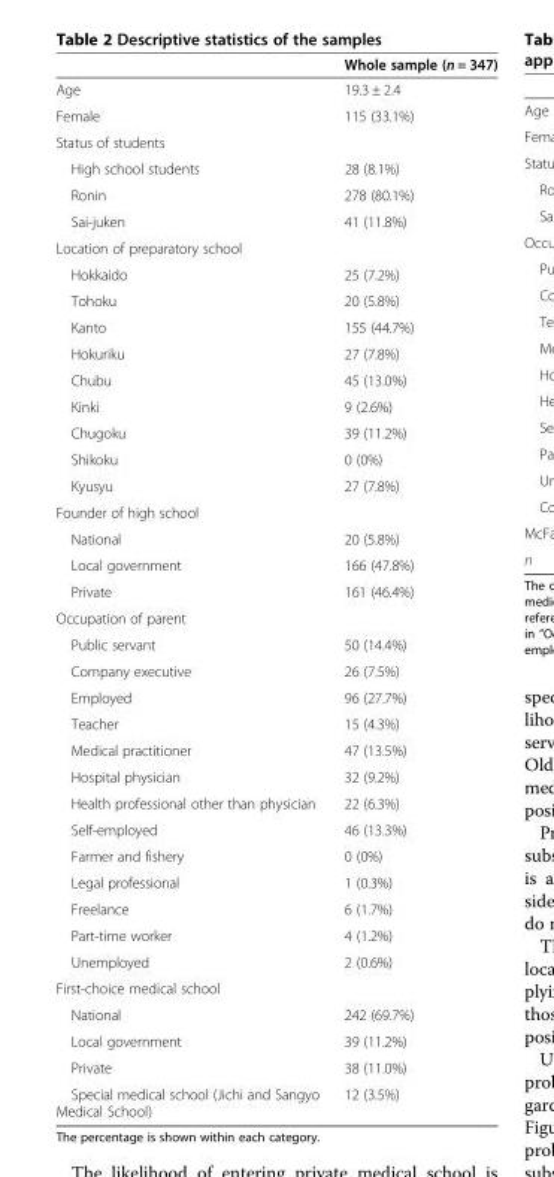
<table><thead><tr><td></td><td>Whole sample (n = 347)</td></tr></thead><tbody><tr><td>Age</td><td>19.3 ± 2.4</td></tr><tr><td>Female</td><td>115 (33.1%)</td></tr><tr><td colspan="2">Status of students</td></tr><tr><td>High school students</td><td>28 (8.1%)</td></tr><tr><td>Ronin</td><td>278 (80.1%)</td></tr><tr><td>Sai-juken</td><td>41 (11.8%)</td></tr><tr><td colspan="2">Location of preparatory school</td></tr><tr><td>Hokkaido</td><td>25 (7.2%)</td></tr><tr><td>Tohoku</td><td>20 (5.8%)</td></tr><tr><td>Kanto</td><td>155 (44.7%)</td></tr><tr><td>Hokuriku</td><td>27 (7.8%)</td></tr><tr><td>Chubu</td><td>45 (13.0%)</td></tr><tr><td>Kinki</td><td>9 (2.6%)</td></tr><tr><td>Chugoku</td><td>39 (11.2%)</td></tr><tr><td>Shikoku</td><td>0 (0%)</td></tr><tr><td>Kyusyu</td><td>27 (7.8%)</td></tr><tr><td colspan="2">Founder of high school</td></tr><tr><td>National</td><td>20 (5.8%)</td></tr><tr><td>Local government</td><td>166 (47.8%)</td></tr><tr><td>Private</td><td>161 (46.4%)</td></tr><tr><td colspan="2">Occupation of parent</td></tr><tr><td>Public servant</td><td>50 (14.4%)</td></tr><tr><td>Company executive</td><td>26 (7.5%)</td></tr><tr><td>Employed</td><td>96 (27.7%)</td></tr><tr><td>Teacher</td><td>15 (4.3%)</td></tr><tr><td>Medical practitioner</td><td>47 (13.5%)</td></tr><tr><td>Hospital physician</td><td>32 (9.2%)</td></tr><tr><td>Health professional other than physician</td><td>22 (6.3%)</td></tr><tr><td>Self-employed</td><td>46 (13.3%)</td></tr><tr><td>Farmer and fishery</td><td>0 (0%)</td></tr><tr><td>Legal professional</td><td>1 (0.3%)</td></tr><tr><td>Freelance</td><td>6 (1.7%)</td></tr><tr><td>Part-time worker</td><td>4 (1.2%)</td></tr><tr><td>Unemployed</td><td>2 (0.6%)</td></tr><tr><td colspan="2">First-choice medical school</td></tr><tr><td>National</td><td>242 (69.7%)</td></tr><tr><td>Local government</td><td>39 (11.2%)</td></tr><tr><td>Private</td><td>38 (11.0%)</td></tr><tr><td>Special medical school (Jichi and Sangyo Medical School)</td><td>12 (3.5%)</td></tr></tbody></table>